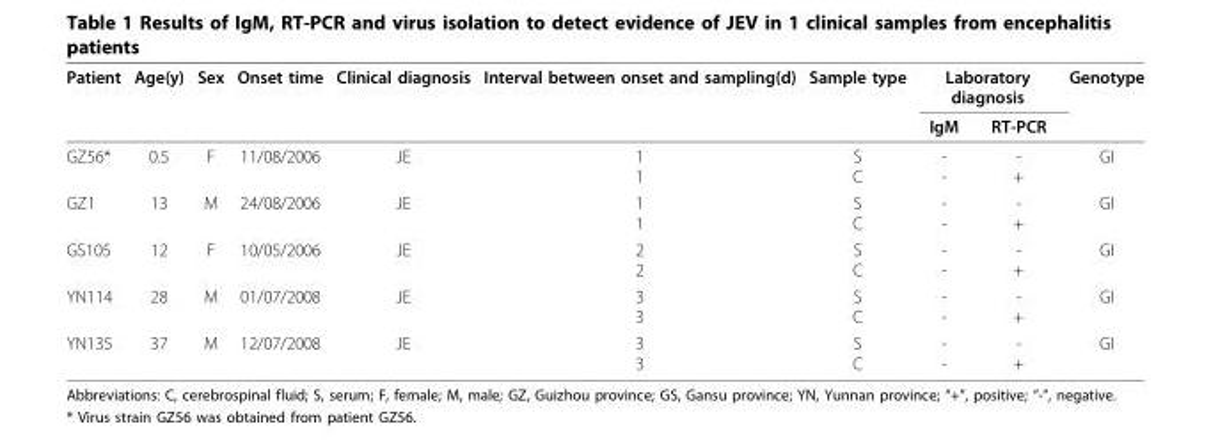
<table><thead><tr><td rowspan="2">Patient</td><td rowspan="2">Age(y)</td><td rowspan="2">Sex</td><td rowspan="2">Onset time</td><td rowspan="2">Clinical diagnosis</td><td rowspan="2">Interval between onset and sampling(d)</td><td rowspan="2">Sample type</td><td colspan="2">Laboratory diagnosis</td><td rowspan="2">Genotype</td></tr><tr><td>IgM</td><td>RT-PCR</td></tr></thead><tbody><tr><td>GZ56*</td><td>0.5</td><td>F</td><td>11/08/2006</td><td>JE</td><td>1 1</td><td>S C</td><td>- -</td><td>- +</td><td>GI</td></tr><tr><td>GZ1</td><td>13</td><td>M</td><td>24/08/2006</td><td>JE</td><td>1 1</td><td>S C</td><td>- -</td><td>- +</td><td>GI</td></tr><tr><td>GS105</td><td>12</td><td>F</td><td>10/05/2006</td><td>JE</td><td>2 2</td><td>S C</td><td>- -</td><td>- +</td><td>GI</td></tr><tr><td>YN114</td><td>28</td><td>M</td><td>01/07/2008</td><td>JE</td><td>3 3</td><td>S C</td><td>- -</td><td>- +</td><td>GI</td></tr><tr><td>YN135</td><td>37</td><td>M</td><td>12/07/2008</td><td>JE</td><td>3 3</td><td>S C</td><td>- -</td><td>- +</td><td>GI</td></tr></tbody></table>